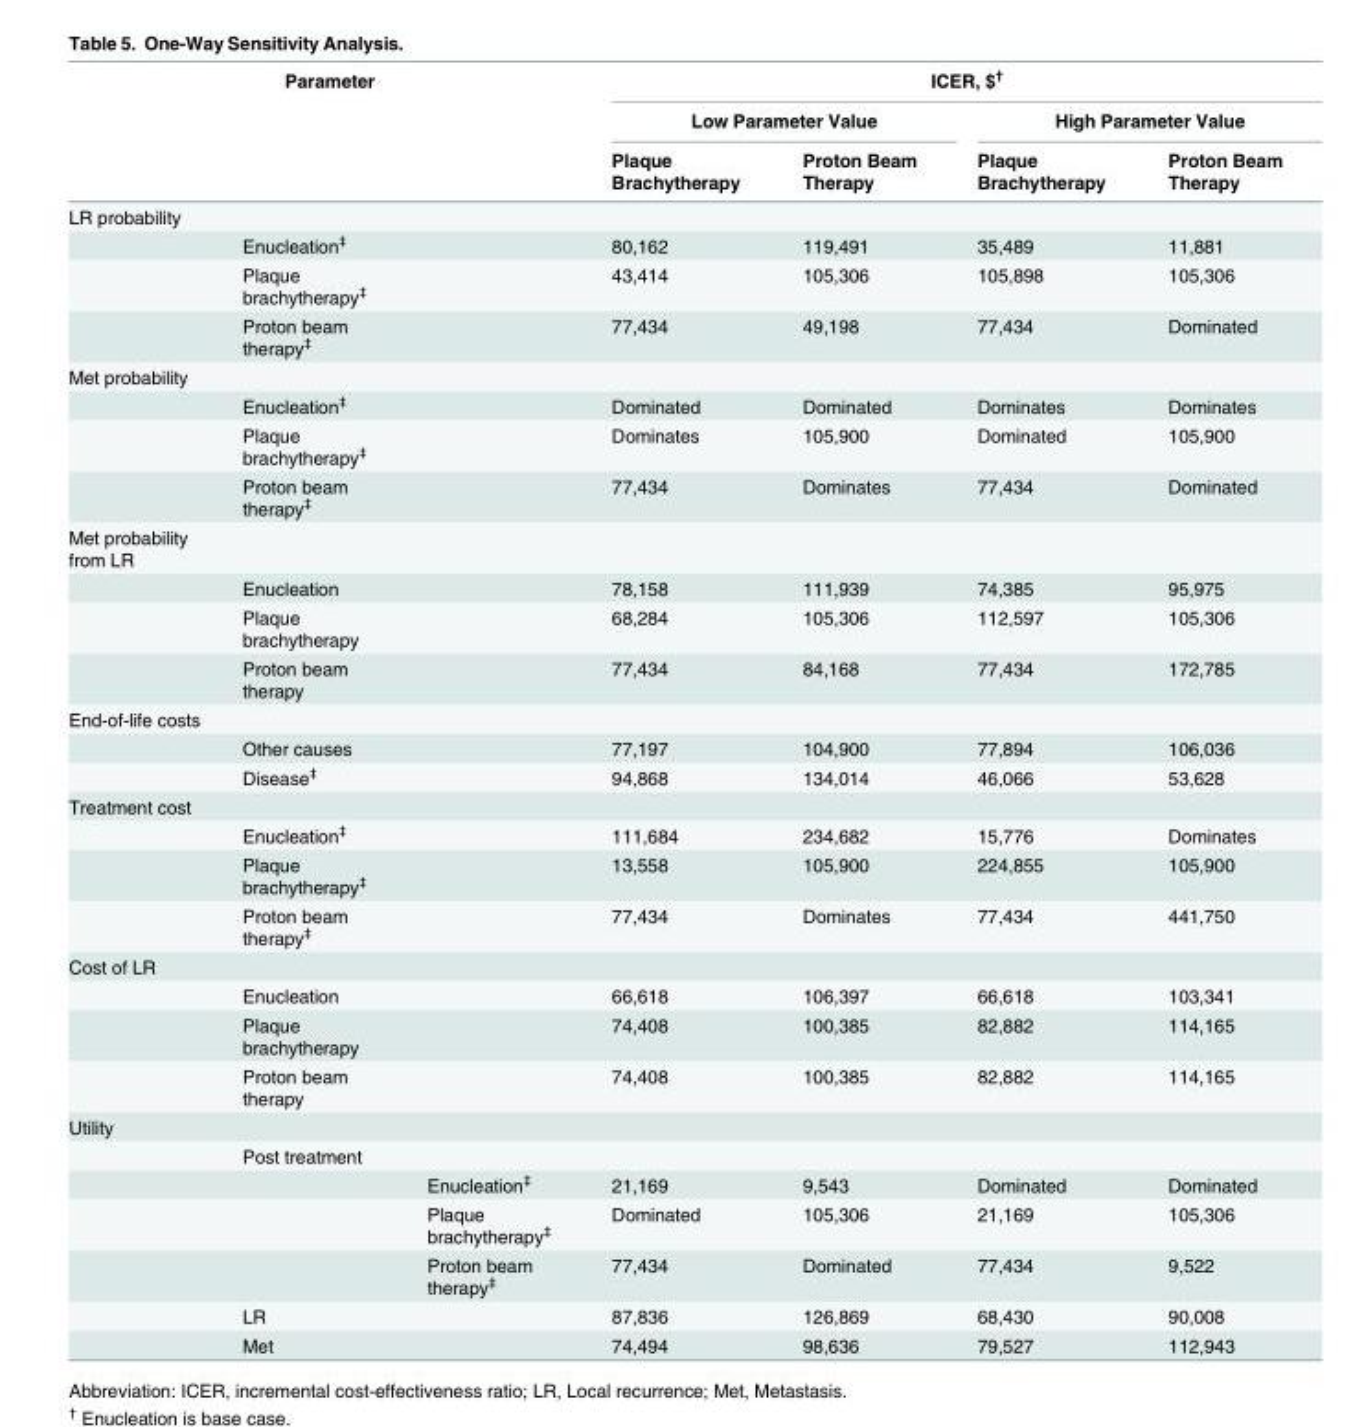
<table><thead><tr><td rowspan="3" colspan="3">Parameter</td><td colspan="4">ICER, $<sup>†</sup></td></tr><tr><td colspan="2">Low Parameter Value</td><td colspan="2">High Parameter Value</td></tr><tr><td rowspan="2">Plaque Brachytherapy</td><td rowspan="2">Proton Beam Therapy</td><td rowspan="2">Plaque Brachytherapy</td><td rowspan="2">Proton Beam Therapy</td></tr><tr><td>LR probability</td><td></td><td></td></tr></thead><tbody><tr><td></td><td>Enucleation<sup>‡</sup></td><td></td><td>80,162</td><td>119,491</td><td>35,489</td><td>11,881</td></tr><tr><td></td><td>Plaque brachytherapy<sup>‡</sup></td><td></td><td>43,414</td><td>105,306</td><td>105,898</td><td>105,306</td></tr><tr><td></td><td>Proton beam therapy<sup>‡</sup></td><td></td><td>77,434</td><td>49,198</td><td>77,434</td><td>Dominated</td></tr><tr><td colspan="7">Met probability</td></tr><tr><td></td><td>Enucleation<sup>‡</sup></td><td></td><td>Dominated</td><td>Dominated</td><td>Dominates</td><td>Dominates</td></tr><tr><td></td><td>Plaque brachytherapy<sup>‡</sup></td><td></td><td>Dominates</td><td>105,900</td><td>Dominated</td><td>105,900</td></tr><tr><td></td><td>Proton beam therapy<sup>‡</sup></td><td></td><td>77,434</td><td>Dominates</td><td>77,434</td><td>Dominated</td></tr><tr><td colspan="7">Met probability from LR</td></tr><tr><td></td><td>Enucleation</td><td></td><td>78,158</td><td>111,939</td><td>74,385</td><td>95,975</td></tr><tr><td></td><td>Plaque brachytherapy</td><td></td><td>68,284</td><td>105,306</td><td>112,597</td><td>105,306</td></tr><tr><td></td><td>Proton beam therapy</td><td></td><td>77,434</td><td>84,168</td><td>77,434</td><td>172,785</td></tr><tr><td colspan="7">End-of-life costs</td></tr><tr><td></td><td>Other causes</td><td></td><td>77,197</td><td>104,900</td><td>77,894</td><td>106,036</td></tr><tr><td></td><td>Disease<sup>‡</sup></td><td></td><td>94,868</td><td>134,014</td><td>46,066</td><td>53,628</td></tr><tr><td colspan="7">Treatment cost</td></tr><tr><td></td><td>Enucleation<sup>‡</sup></td><td></td><td>111,684</td><td>234,682</td><td>15,776</td><td>Dominates</td></tr><tr><td></td><td>Plaque brachytherapy<sup>‡</sup></td><td></td><td>13,558</td><td>105,900</td><td>224,855</td><td>105,900</td></tr><tr><td></td><td>Proton beam therapy<sup>‡</sup></td><td></td><td>77,434</td><td>Dominates</td><td>77,434</td><td>441,750</td></tr><tr><td colspan="7">Cost of LR</td></tr><tr><td></td><td>Enucleation</td><td></td><td>66,618</td><td>106,397</td><td>66,618</td><td>103,341</td></tr><tr><td></td><td>Plaque brachytherapy</td><td></td><td>74,408</td><td>100,385</td><td>82,882</td><td>114,165</td></tr><tr><td></td><td>Proton beam therapy</td><td></td><td>74,408</td><td>100,385</td><td>82,882</td><td>114,165</td></tr><tr><td colspan="7">Utility</td></tr><tr><td></td><td>Post treatment</td><td></td><td></td><td></td><td></td><td></td></tr><tr><td></td><td></td><td>Enucleation<sup>‡</sup></td><td>21,169</td><td>9,543</td><td>Dominated</td><td>Dominated</td></tr><tr><td></td><td></td><td>Plaque brachytherapy<sup>‡</sup></td><td>Dominated</td><td>105,306</td><td>21,169</td><td>105,306</td></tr><tr><td></td><td></td><td>Proton beam therapy<sup>‡</sup></td><td>77,434</td><td>Dominated</td><td>77,434</td><td>9,522</td></tr><tr><td></td><td>LR</td><td></td><td>87,836</td><td>126,869</td><td>68,430</td><td>90,008</td></tr><tr><td></td><td>Met</td><td></td><td>74,494</td><td>98,636</td><td>79,527</td><td>112,943</td></tr></tbody></table>